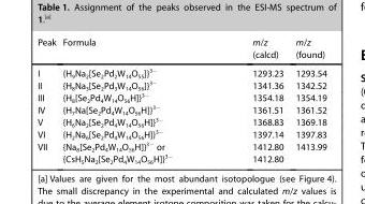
<table><thead><tr><td>Peak</td><td>Formula</td><td>m/z (calcd)</td><td>m/z (found)</td></tr></thead><tbody><tr><td>I</td><td>{H<sub>9</sub>Na<sub>2</sub>[Se<sub>2</sub>Pd<sub>2</sub>W<sub>14</sub>O<sub>55</sub>]}<sup>3−</sup></td><td>1293.23</td><td>1293.54</td></tr><tr><td>II</td><td>{H<sub>8</sub>Na<sub>3</sub>[Se<sub>2</sub>Pd<sub>3</sub>W<sub>14</sub>O<sub>56</sub>]}<sup>3−</sup></td><td>1341.36</td><td>1342.52</td></tr><tr><td>III</td><td>{H<sub>8</sub>[Se<sub>2</sub>Pd<sub>4</sub>W<sub>14</sub>O<sub>56</sub>H]}<sup>3−</sup></td><td>1354.18</td><td>1354.19</td></tr><tr><td>IV</td><td>{H<sub>7</sub>Na[Se<sub>2</sub>Pd<sub>4</sub>W<sub>14</sub>O<sub>56</sub>H]}<sup>3−</sup></td><td>1361.51</td><td>1361.52</td></tr><tr><td>V</td><td>{H<sub>6</sub>Na<sub>2</sub>[Se<sub>2</sub>Pd<sub>4</sub>W<sub>14</sub>O<sub>56</sub>H]}<sup>3−</sup></td><td>1368.83</td><td>1369.18</td></tr><tr><td>VI</td><td>{H<sub>2</sub>Na<sub>6</sub>[Se<sub>2</sub>Pd<sub>4</sub>W<sub>14</sub>O<sub>56</sub>H]}<sup>3−</sup></td><td>1397.14</td><td>1397.83</td></tr><tr><td>VII</td><td>{Na<sub>8</sub>[Se<sub>2</sub>Pd<sub>4</sub>W<sub>14</sub>O<sub>56</sub>H]}<sup>3−</sup> or {CsH<sub>5</sub>Na<sub>2</sub>[Se<sub>2</sub>Pd<sub>4</sub>W<sub>14</sub>O<sub>56</sub>H]}<sup>3−</sup></td><td>1412.80 1412.80</td><td>1413.99</td></tr></tbody></table>